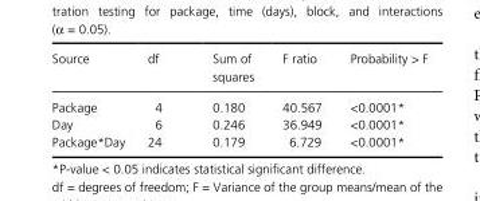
<table><thead><tr><td>Source</td><td>df</td><td>Sum of squares</td><td>F ratio</td><td>Probability &gt; F</td></tr></thead><tbody><tr><td>Package</td><td>4</td><td>0.180</td><td>40.567</td><td>&lt;0.0001 *</td></tr><tr><td>Day</td><td>6</td><td>0.246</td><td>36.949</td><td>&lt;0.0001 *</td></tr><tr><td>Package*Day</td><td>24</td><td>0.179</td><td>6.729</td><td>&lt;0.0001 *</td></tr></tbody></table>